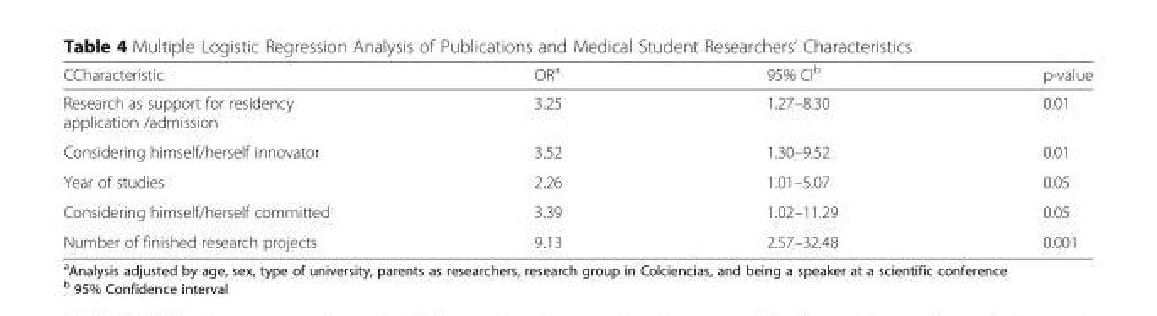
<table><thead><tr><td>CCharacteristic</td><td>OR<sup>a</sup></td><td>95% CI<sup>b</sup></td><td>p-value</td></tr></thead><tbody><tr><td>Research as support for residency application /admission</td><td>3.25</td><td>1.27–8.30</td><td>0.01</td></tr><tr><td>Considering himself/herself innovator</td><td>3.52</td><td>1.30–9.52</td><td>0.01</td></tr><tr><td>Year of studies</td><td>2.26</td><td>1.01–5.07</td><td>0.05</td></tr><tr><td>Considering himself/herself committed</td><td>3.39</td><td>1.02–11.29</td><td>0.05</td></tr><tr><td>Number of finished research projects</td><td>9.13</td><td>2.57–32.48</td><td>0.001</td></tr></tbody></table>